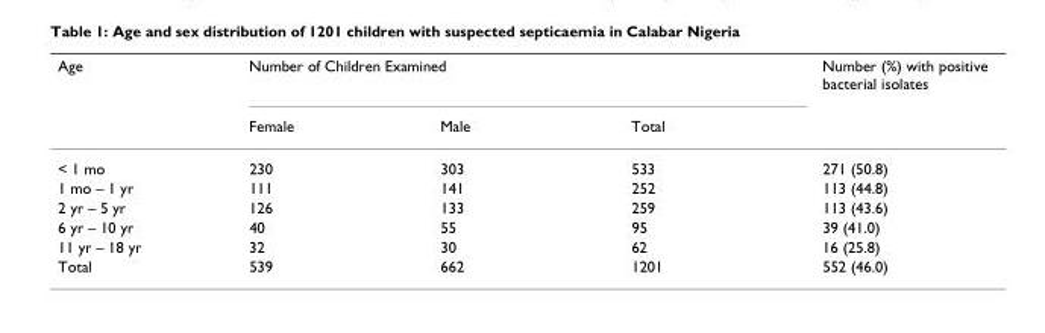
<table><thead><tr><td rowspan="2">Age</td><td colspan="3">Number of Children Examined</td><td rowspan="2">Number (%) with positive bacterial isolates</td></tr><tr><td>Female</td><td>Male</td><td>Total</td></tr></thead><tbody><tr><td>&lt; 1 mo</td><td>230</td><td>303</td><td>533</td><td>271 (50.8)</td></tr><tr><td>1 mo – 1 yr</td><td>111</td><td>141</td><td>252</td><td>113 (44.8)</td></tr><tr><td>2 yr – 5 yr</td><td>126</td><td>133</td><td>259</td><td>113 (43.6)</td></tr><tr><td>6 yr – 10 yr</td><td>40</td><td>55</td><td>95</td><td>39 (41.0)</td></tr><tr><td>11 yr – 18 yr</td><td>32</td><td>30</td><td>62</td><td>16 (25.8)</td></tr><tr><td>Total</td><td>539</td><td>662</td><td>1201</td><td>552 (46.0)</td></tr></tbody></table>